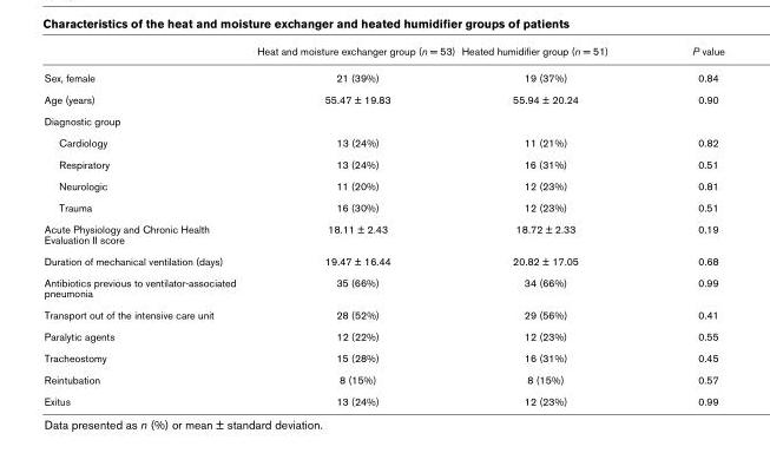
<table><thead><tr><td></td><td>Heat and moisture exchanger group (n = 53)</td><td>Heated humidifier group (n = 51)</td><td>P value</td></tr></thead><tbody><tr><td>Sex, female</td><td>21 (39%)</td><td>19 (37%)</td><td>0.84</td></tr><tr><td>Age (years)</td><td>55.47 ± 19.83</td><td>55.94 ± 20.24</td><td>0.90</td></tr><tr><td colspan="4">Diagnostic group</td></tr><tr><td>Cardiology</td><td>13 (24%)</td><td>11 (21%)</td><td>0.82</td></tr><tr><td>Respiratory</td><td>13 (24%)</td><td>16 (31%)</td><td>0.51</td></tr><tr><td>Neurologic</td><td>11 (20%)</td><td>12 (23%)</td><td>0.81</td></tr><tr><td>Trauma</td><td>16 (30%)</td><td>12 (23%)</td><td>0.51</td></tr><tr><td>Acute Physiology and Chronic Health Evaluation II score</td><td>18.11 ± 2.43</td><td>18.72 ± 2.33</td><td>0.19</td></tr><tr><td>Duration of mechanical ventilation (days)</td><td>19.47 ± 16.44</td><td>20.82 ± 17.05</td><td>0.68</td></tr><tr><td>Antibiotics previous to ventilator-associated pneumonia</td><td>35 (66%)</td><td>34 (66%)</td><td>0.99</td></tr><tr><td>Transport out of the intensive care unit</td><td>28 (52%)</td><td>29 (56%)</td><td>0.41</td></tr><tr><td>Paralytic agents</td><td>12 (22%)</td><td>12 (23%)</td><td>0.55</td></tr><tr><td>Tracheostomy</td><td>15 (28%)</td><td>16 (31%)</td><td>0.45</td></tr><tr><td>Reintubation</td><td>8 (15%)</td><td>8 (15%)</td><td>0.57</td></tr><tr><td>Exitus</td><td>13 (24%)</td><td>12 (23%)</td><td>0.99</td></tr></tbody></table>